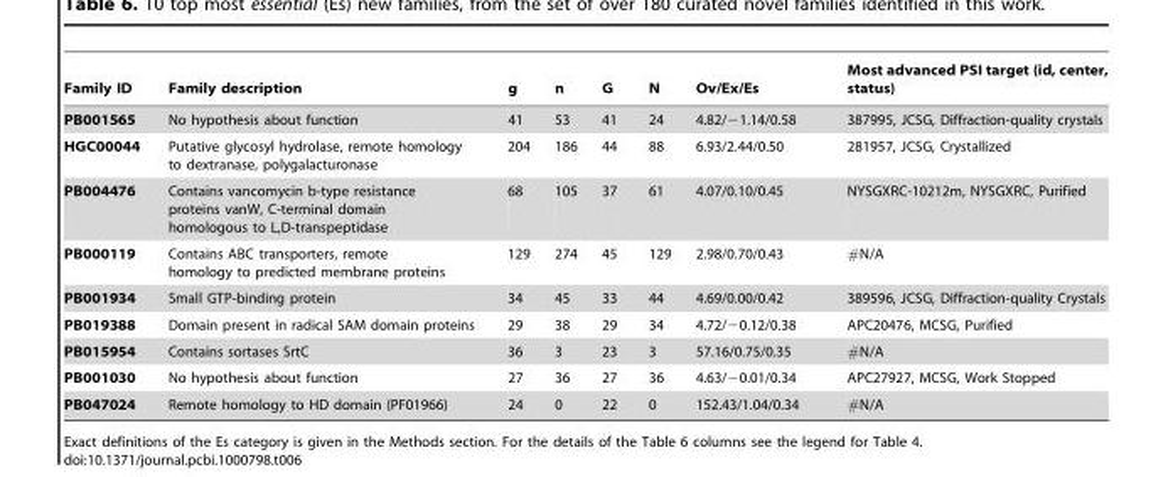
<table><thead><tr><td>Family ID</td><td>Family description</td><td>g</td><td>n</td><td>G</td><td>N</td><td>Ov/Ex/Es</td><td>Most advanced PSI target (id, center, status)</td></tr></thead><tbody><tr><td>PB001565</td><td>No hypothesis about function</td><td>41</td><td>53</td><td>41</td><td>24</td><td>4.82/−1.14/0.58</td><td>387995, JCSG, Diffraction-quality crystals</td></tr><tr><td>HGC00044</td><td>Putative glycosyl hydrolase, remote homology to dextranase, polygalacturonase</td><td>204</td><td>186</td><td>44</td><td>88</td><td>6.93/2.44/0.50</td><td>281957, JCSG, Crystallized</td></tr><tr><td>PB004476</td><td>Contains vancomycin b-type resistance proteins vanW, C-terminal domain homologous to L,D-transpeptidase</td><td>68</td><td>105</td><td>37</td><td>61</td><td>4.07/0.10/0.45</td><td>NYSGXRC-10212m, NYSGXRC, Purified</td></tr><tr><td>PB000119</td><td>Contains ABC transporters, remote homology to predicted membrane proteins</td><td>129</td><td>274</td><td>45</td><td>129</td><td>2.98/0.70/0.43</td><td>#N/A</td></tr><tr><td>PB001934</td><td>Small GTP-binding protein</td><td>34</td><td>45</td><td>33</td><td>44</td><td>4.69/0.00/0.42</td><td>389596, JCSG, Diffraction-quality Crystals</td></tr><tr><td>PB019388</td><td>Domain present in radical SAM domain proteins</td><td>29</td><td>38</td><td>29</td><td>34</td><td>4.72/−0.12/0.38</td><td>APC20476, MCSG, Purified</td></tr><tr><td>PB015954</td><td>Contains sortases SrtC</td><td>36</td><td>3</td><td>23</td><td>3</td><td>57.16/0.75/0.35</td><td>#N/A</td></tr><tr><td>PB001030</td><td>No hypothesis about function</td><td>27</td><td>36</td><td>27</td><td>36</td><td>4.63/−0.01/0.34</td><td>APC27927, MCSG, Work Stopped</td></tr><tr><td>PB047024</td><td>Remote homology to HD domain (PF01966)</td><td>24</td><td>0</td><td>22</td><td>0</td><td>152.43/1.04/0.34</td><td>#N/A</td></tr></tbody></table>